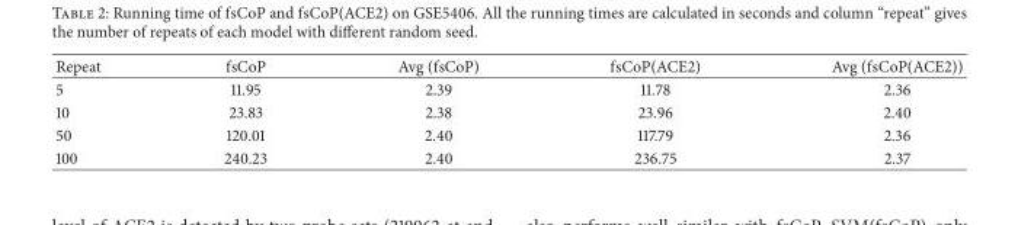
<table><thead><tr><td>Repeat</td><td>fsCoP</td><td>Avg (fsCoP)</td><td>fsCoP(ACE2)</td><td>Avg (fsCoP(ACE2))</td></tr></thead><tbody><tr><td>5</td><td>11.95</td><td>2.39</td><td>11.78</td><td>2.36</td></tr><tr><td>10</td><td>23.83</td><td>2.38</td><td>23.96</td><td>2.40</td></tr><tr><td>50</td><td>120.01</td><td>2.40</td><td>117.79</td><td>2.36</td></tr><tr><td>100</td><td>240.23</td><td>2.40</td><td>236.75</td><td>2.37</td></tr></tbody></table>